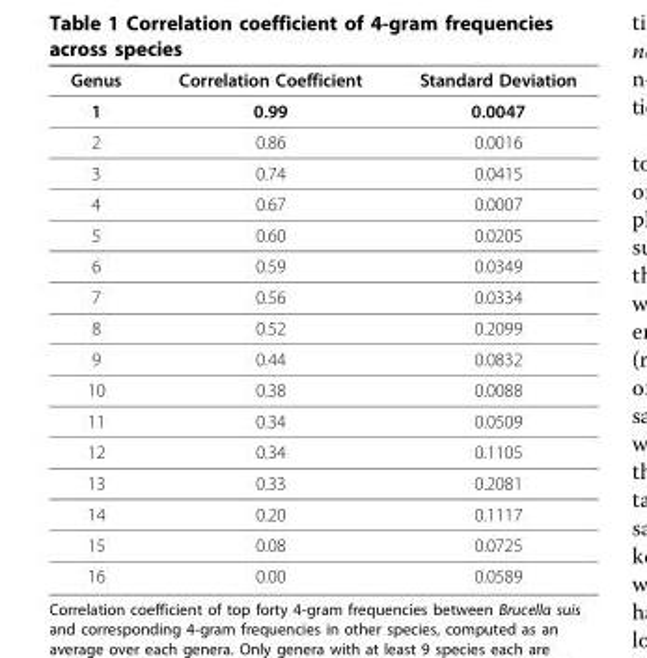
<table><thead><tr><td>Genus</td><td>Correlation Coefficient</td><td>Standard Deviation</td></tr></thead><tbody><tr><td>1</td><td>0.99</td><td>0.0047</td></tr><tr><td>2</td><td>0.86</td><td>0.0016</td></tr><tr><td>3</td><td>0.74</td><td>0.0415</td></tr><tr><td>4</td><td>0.67</td><td>0.0007</td></tr><tr><td>5</td><td>0.60</td><td>0.0205</td></tr><tr><td>6</td><td>0.59</td><td>0.0349</td></tr><tr><td>7</td><td>0.56</td><td>0.0334</td></tr><tr><td>8</td><td>0.52</td><td>0.2099</td></tr><tr><td>9</td><td>0.44</td><td>0.0832</td></tr><tr><td>10</td><td>0.38</td><td>0.0088</td></tr><tr><td>11</td><td>0.34</td><td>0.0509</td></tr><tr><td>12</td><td>0.34</td><td>0.1105</td></tr><tr><td>13</td><td>0.33</td><td>0.2081</td></tr><tr><td>14</td><td>0.20</td><td>0.1117</td></tr><tr><td>15</td><td>0.08</td><td>0.0725</td></tr><tr><td>16</td><td>0.00</td><td>0.0589</td></tr></tbody></table>